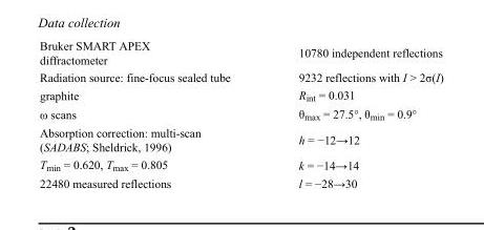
<table><tbody><tr><td>Bruker SMART APEX diffractometer</td><td>10780 independent reflections</td></tr><tr><td>Radiation source: fine-focus sealed tube</td><td>9232 reflections with I &gt; 2σ(I)</td></tr><tr><td>graphite</td><td>R<sub>int</sub> = 0.031</td></tr><tr><td>ω scans</td><td>θ<sub>max</sub> = 27.5°, θ<sub>min</sub> = 0.9°</td></tr><tr><td>Absorption correction: multi-scan (SADABS; Sheldrick, 1996)</td><td>h = −12→12</td></tr><tr><td>T<sub>min</sub> = 0.620, T<sub>max</sub> = 0.805</td><td>k = −14→14</td></tr><tr><td>22480 measured reflections</td><td>l = −28→30</td></tr></tbody></table>